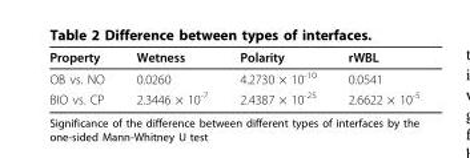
<table><thead><tr><td>Property</td><td>Wetness</td><td>Polarity</td><td>rWBL</td></tr></thead><tbody><tr><td>OB vs. NO</td><td>0.0260</td><td>4.2730 × 10<sup>-10</sup></td><td>0.0541</td></tr><tr><td>BIO vs. CP</td><td>2.3446 × 10<sup>-7</sup></td><td>2.4387 × 10<sup>-25</sup></td><td>2.6622 × 10<sup>-5</sup></td></tr></tbody></table>